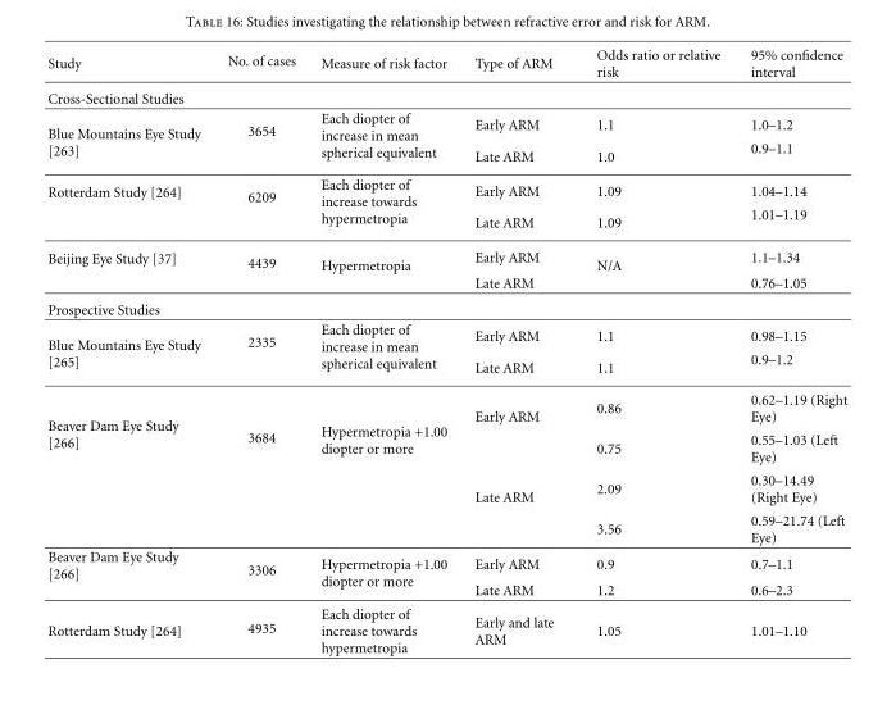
<table><thead><tr><td>Study</td><td>No. of cases</td><td>Measure of risk factor</td><td>Type of ARM</td><td>Odds ratio or relative risk</td><td>95% confidence interval</td></tr></thead><tbody><tr><td colspan="6">Cross-Sectional Studies</td></tr><tr><td rowspan="2">Blue Mountains Eye Study [263]</td><td rowspan="2">3654</td><td rowspan="2">Each diopter of increase in mean spherical equivalent</td><td>Early ARM</td><td>1.1</td><td>1.0–1.2</td></tr><tr><td>Late ARM</td><td>1.0</td><td>0.9–1.1</td></tr><tr><td rowspan="2">Rotterdam Study [264]</td><td rowspan="2">6209</td><td rowspan="2">Each diopter of increase towards hypermetropia</td><td>Early ARM</td><td>1.09</td><td>1.04–1.14</td></tr><tr><td>Late ARM</td><td>1.09</td><td>1.01–1.19</td></tr><tr><td rowspan="2">Beijing Eye Study [37]</td><td rowspan="2">4439</td><td rowspan="2">Hypermetropia</td><td>Early ARM</td><td rowspan="2">N/A</td><td>1.1–1.34</td></tr><tr><td>Late ARM</td><td>0.76–1.05</td></tr><tr><td colspan="6">Prospective Studies</td></tr><tr><td rowspan="2">Blue Mountains Eye Study [265]</td><td rowspan="2">2335</td><td rowspan="2">Each diopter of increase in mean spherical equivalent</td><td>Early ARM</td><td>1.1</td><td>0.98–1.15</td></tr><tr><td>Late ARM</td><td>1.1</td><td>0.9–1.2</td></tr><tr><td rowspan="4">Beaver Dam Eye Study [266]</td><td rowspan="4">3684</td><td rowspan="4">Hypermetropia +1.00 diopter or more</td><td rowspan="2">Early ARM</td><td>0.86</td><td>0.62–1.19 (Right Eye)</td></tr><tr><td>0.75</td><td>0.55–1.03 (Left Eye)</td></tr><tr><td rowspan="2">Late ARM</td><td>2.09</td><td>0.30–14.49 (Right Eye)</td></tr><tr><td>3.56</td><td>0.59–21.74 (Left Eye)</td></tr><tr><td rowspan="2">Beaver Dam Eye Study [266]</td><td rowspan="2">3306</td><td rowspan="2">Hypermetropia +1.00 diopter or more</td><td>Early ARM</td><td>0.9</td><td>0.7–1.1</td></tr><tr><td>Late ARM</td><td>1.2</td><td>0.6–2.3</td></tr><tr><td>Rotterdam Study [264]</td><td>4935</td><td>Each diopter of increase towards hypermetropia</td><td>Early and late ARM</td><td>1.05</td><td>1.01–1.10</td></tr></tbody></table>